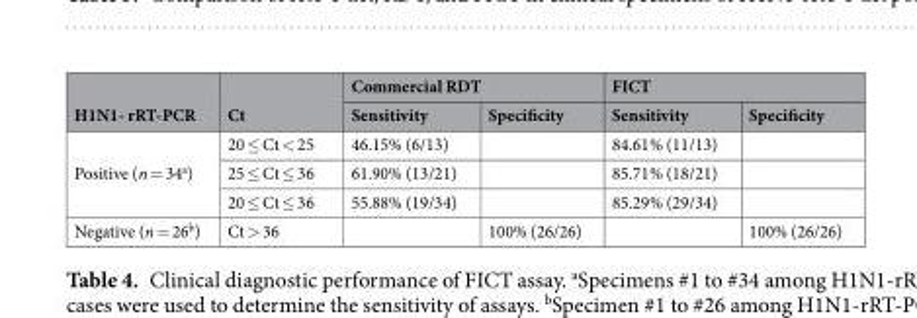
<table><thead><tr><td rowspan="2">H1N1- rRT-PCR</td><td rowspan="2">Ct</td><td colspan="2">Commercial RDT</td><td colspan="2">FICT</td></tr><tr><td>Sensitivity</td><td>Specificity</td><td>Sensitivity</td><td>Specificity</td></tr></thead><tbody><tr><td rowspan="3">Positive (n = 34<sup>a</sup>)</td><td>20 ≤ Ct &lt; 25</td><td>46.15% (6/13)</td><td></td><td>84.61% (11/13)</td><td></td></tr><tr><td>25 ≤ Ct ≤ 36</td><td>61.90% (13/21)</td><td></td><td>85.71% (18/21)</td><td></td></tr><tr><td>20 ≤ Ct ≤ 36</td><td>55.88% (19/34)</td><td></td><td>85.29% (29/34)</td><td></td></tr><tr><td>Negative (n = 26<sup>b</sup>)</td><td>Ct &gt; 36</td><td></td><td>100% (26/26)</td><td></td><td>100% (26/26)</td></tr></tbody></table>